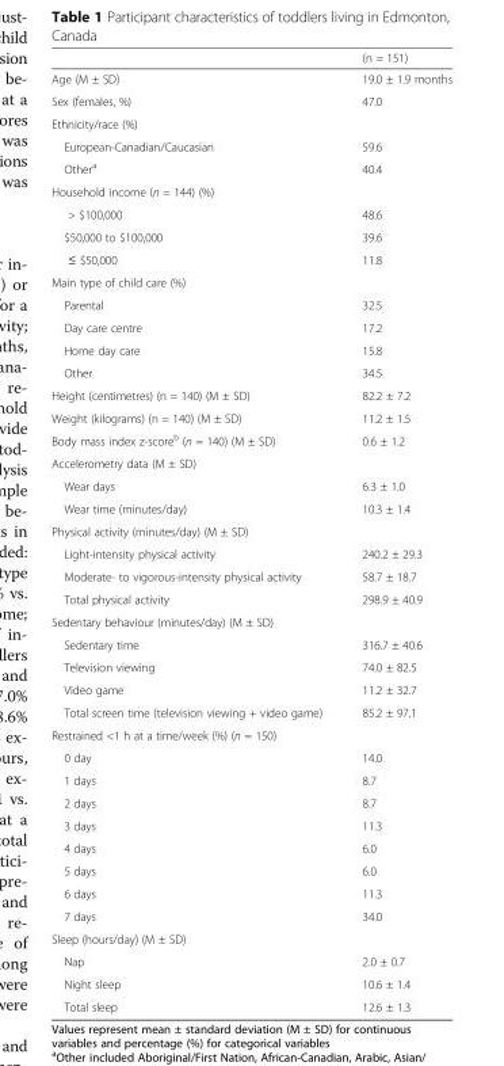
<table><thead><tr><td></td><td>(n = 151)</td></tr></thead><tbody><tr><td>Age (M ± SD)</td><td>19.0 ± 1.9 months</td></tr><tr><td>Sex (females, %)</td><td>47.0</td></tr><tr><td colspan="2">Ethnicity/race (%)</td></tr><tr><td>European-Canadian/Caucasian</td><td>59.6</td></tr><tr><td>Other<sup>a</sup></td><td>40.4</td></tr><tr><td colspan="2">Household income (n = 144) (%)</td></tr><tr><td>&gt; $100,000</td><td>48.6</td></tr><tr><td>$50,000 to $100,000</td><td>39.6</td></tr><tr><td>≤ $50,000</td><td>11.8</td></tr><tr><td colspan="2">Main type of child care (%)</td></tr><tr><td>Parental</td><td>32.5</td></tr><tr><td>Day care centre</td><td>17.2</td></tr><tr><td>Home day care</td><td>15.8</td></tr><tr><td>Other</td><td>34.5</td></tr><tr><td>Height (centimetres) (n = 140) (M ± SD)</td><td>82.2 ± 7.2</td></tr><tr><td>Weight (kilograms) (n = 140) (M ± SD)</td><td>11.2 ± 1.5</td></tr><tr><td>Body mass index z-score<sup>b</sup> (n = 140) (M ± SD)</td><td>0.6 ± 1.2</td></tr><tr><td colspan="2">Accelerometry data (M ± SD)</td></tr><tr><td>Wear days</td><td>6.3 ± 1.0</td></tr><tr><td>Wear time (minutes/day)</td><td>10.3 ± 1.4</td></tr><tr><td colspan="2">Physical activity (minutes/day) (M ± SD)</td></tr><tr><td>Light-intensity physical activity</td><td>240.2 ± 29.3</td></tr><tr><td>Moderate- to vigorous-intensity physical activity</td><td>58.7 ± 18.7</td></tr><tr><td>Total physical activity</td><td>298.9 ± 40.9</td></tr><tr><td colspan="2">Sedentary behaviour (minutes/day) (M ± SD)</td></tr><tr><td>Sedentary time</td><td>316.7 ± 40.6</td></tr><tr><td>Television viewing</td><td>74.0 ± 82.5</td></tr><tr><td>Video game</td><td>11.2 ± 32.7</td></tr><tr><td>Total screen time (television viewing + video game)</td><td>85.2 ± 97.1</td></tr><tr><td colspan="2">Restrained &lt;1 h at a time/week (%) (n = 150)</td></tr><tr><td>0 day</td><td>14.0</td></tr><tr><td>1 days</td><td>8.7</td></tr><tr><td>2 days</td><td>8.7</td></tr><tr><td>3 days</td><td>11.3</td></tr><tr><td>4 days</td><td>6.0</td></tr><tr><td>5 days</td><td>6.0</td></tr><tr><td>6 days</td><td>11.3</td></tr><tr><td>7 days</td><td>34.0</td></tr><tr><td colspan="2">Sleep (hours/day) (M ± SD)</td></tr><tr><td>Nap</td><td>2.0 ± 0.7</td></tr><tr><td>Night sleep</td><td>10.6 ± 1.4</td></tr><tr><td>Total sleep</td><td>12.6 ± 1.3</td></tr></tbody></table>